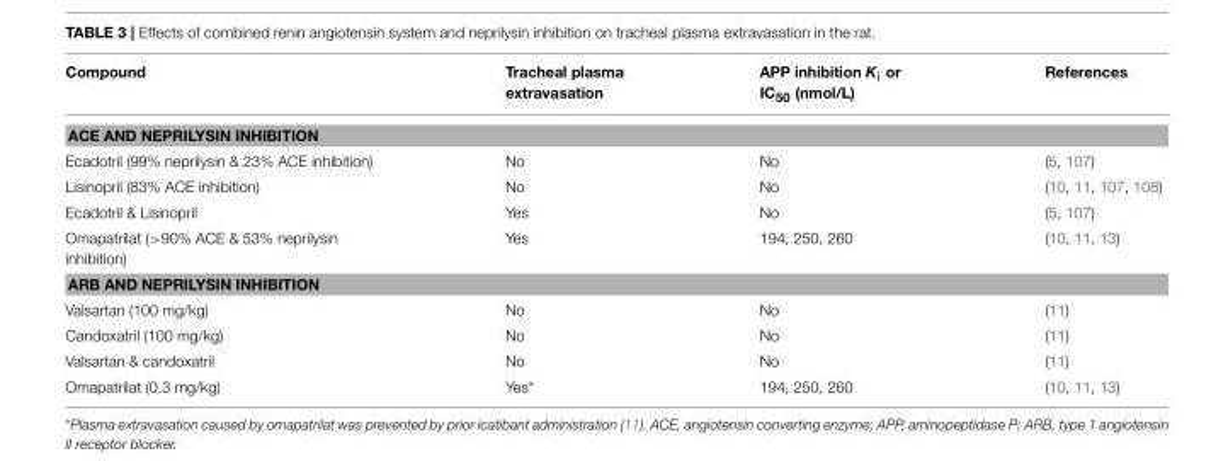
<table><thead><tr><td>Compound</td><td>Tracheal plasma extravasation</td><td>APP inhibition K<sub>i</sub> or IC<sub>50</sub> (nmol/L)</td><td>References</td></tr></thead><tbody><tr><td colspan="4">ACE AND NEPRILYSIN INHIBITION</td></tr><tr><td>Ecadotril (99% neprilysin &amp; 23% ACE inhibition)</td><td>No</td><td>No</td><td>(5, 107)</td></tr><tr><td>Lisinopril (83% ACE inhibition)</td><td>No</td><td>No</td><td>(10, 11, 107, 108)</td></tr><tr><td>Ecadotril &amp; Lisinopril</td><td>Yes</td><td>No</td><td>(5, 107)</td></tr><tr><td>Omapatrilat (&gt;90% ACE &amp; 53% neprilysin inhibition)</td><td>Yes</td><td>194, 250, 260</td><td>(10, 11, 13)</td></tr><tr><td colspan="4">ARB AND NEPRILYSIN INHIBITION</td></tr><tr><td>Valsartan (100 mg/kg)</td><td>No</td><td>No</td><td>(11)</td></tr><tr><td>Candoxatril (100 mg/kg)</td><td>No</td><td>No</td><td>(11)</td></tr><tr><td>Valsartan &amp; candoxatril</td><td>No</td><td>No</td><td>(11)</td></tr><tr><td>Omapatrilat (0.3 mg/kg)</td><td>Yes*</td><td>194, 250, 260</td><td>(10, 11, 13)</td></tr></tbody></table>